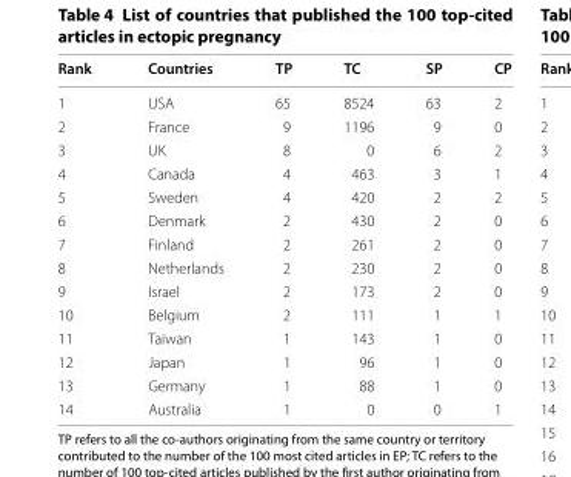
<table><thead><tr><td>Rank</td><td>Countries</td><td>TP</td><td>TC</td><td>SP</td><td>CP</td></tr></thead><tbody><tr><td>1</td><td>USA</td><td>65</td><td>8524</td><td>63</td><td>2</td></tr><tr><td>2</td><td>France</td><td>9</td><td>1196</td><td>9</td><td>0</td></tr><tr><td>3</td><td>UK</td><td>8</td><td>0</td><td>6</td><td>2</td></tr><tr><td>4</td><td>Canada</td><td>4</td><td>463</td><td>3</td><td>1</td></tr><tr><td>5</td><td>Sweden</td><td>4</td><td>420</td><td>2</td><td>2</td></tr><tr><td>6</td><td>Denmark</td><td>2</td><td>430</td><td>2</td><td>0</td></tr><tr><td>7</td><td>Finland</td><td>2</td><td>261</td><td>2</td><td>0</td></tr><tr><td>8</td><td>Netherlands</td><td>2</td><td>230</td><td>2</td><td>0</td></tr><tr><td>9</td><td>Israel</td><td>2</td><td>173</td><td>2</td><td>0</td></tr><tr><td>10</td><td>Belgium</td><td>2</td><td>111</td><td>1</td><td>1</td></tr><tr><td>11</td><td>Taiwan</td><td>1</td><td>143</td><td>1</td><td>0</td></tr><tr><td>12</td><td>Japan</td><td>1</td><td>96</td><td>1</td><td>0</td></tr><tr><td>13</td><td>Germany</td><td>1</td><td>88</td><td>1</td><td>0</td></tr><tr><td>14</td><td>Australia</td><td>1</td><td>0</td><td>0</td><td>1</td></tr></tbody></table>